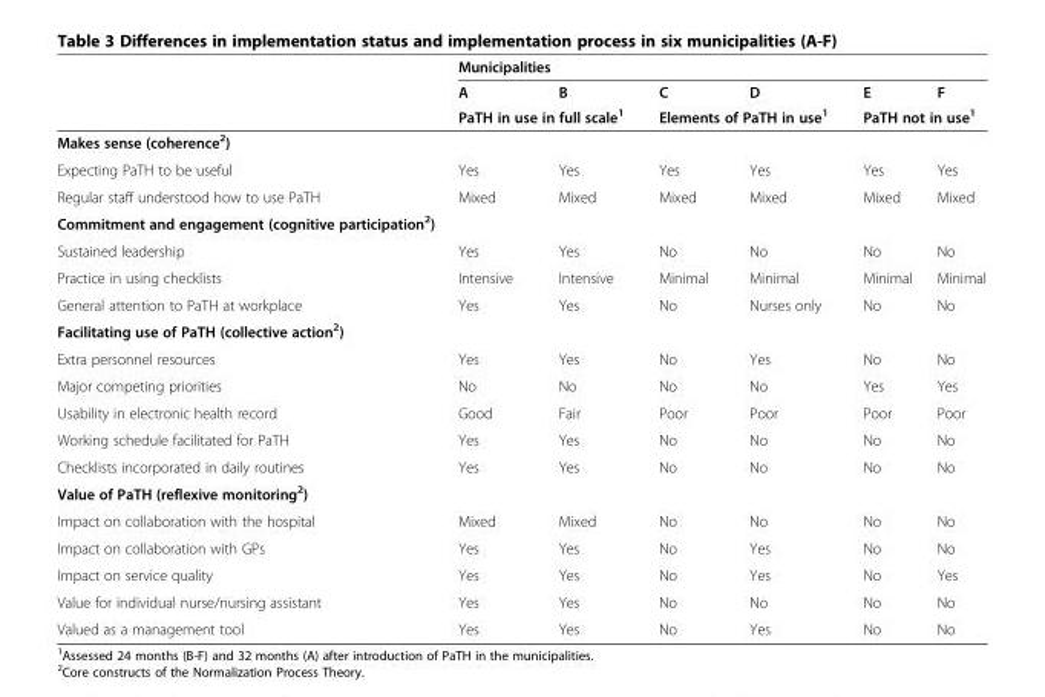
<table><thead><tr><td rowspan="3"></td><td colspan="6">Municipalities</td></tr><tr><td>A</td><td>B</td><td>C</td><td>D</td><td>E</td><td>F</td></tr><tr><td colspan="2">PaTH in use in full scale<sup>1</sup></td><td colspan="2">Elements of PaTH in use<sup>1</sup></td><td colspan="2">PaTH not in use<sup>1</sup></td></tr></thead><tbody><tr><td colspan="7">Makes sense (coherence<sup>2</sup>)</td></tr><tr><td>Expecting PaTH to be useful</td><td>Yes</td><td>Yes</td><td>Yes</td><td>Yes</td><td>Yes</td><td>Yes</td></tr><tr><td>Regular staff understood how to use PaTH</td><td>Mixed</td><td>Mixed</td><td>Mixed</td><td>Mixed</td><td>Mixed</td><td>Mixed</td></tr><tr><td colspan="7">Commitment and engagement (cognitive participation<sup>2</sup>)</td></tr><tr><td>Sustained leadership</td><td>Yes</td><td>Yes</td><td>No</td><td>No</td><td>No</td><td>No</td></tr><tr><td>Practice in using checklists</td><td>Intensive</td><td>Intensive</td><td>Minimal</td><td>Minimal</td><td>Minimal</td><td>Minimal</td></tr><tr><td>General attention to PaTH at workplace</td><td>Yes</td><td>Yes</td><td>No</td><td>Nurses only</td><td>No</td><td>No</td></tr><tr><td colspan="7">Facilitating use of PaTH (collective action<sup>2</sup>)</td></tr><tr><td>Extra personnel resources</td><td>Yes</td><td>Yes</td><td>No</td><td>Yes</td><td>No</td><td>No</td></tr><tr><td>Major competing priorities</td><td>No</td><td>No</td><td>No</td><td>No</td><td>Yes</td><td>Yes</td></tr><tr><td>Usability in electronic health record</td><td>Good</td><td>Fair</td><td>Poor</td><td>Poor</td><td>Poor</td><td>Poor</td></tr><tr><td>Working schedule facilitated for PaTH</td><td>Yes</td><td>Yes</td><td>No</td><td>No</td><td>No</td><td>No</td></tr><tr><td>Checklists incorporated in daily routines</td><td>Yes</td><td>Yes</td><td>No</td><td>No</td><td>No</td><td>No</td></tr><tr><td colspan="7">Value of PaTH (reflexive monitoring<sup>2</sup>)</td></tr><tr><td>Impact on collaboration with the hospital</td><td>Mixed</td><td>Mixed</td><td>No</td><td>No</td><td>No</td><td>No</td></tr><tr><td>Impact on collaboration with GPs</td><td>Yes</td><td>Yes</td><td>No</td><td>Yes</td><td>No</td><td>No</td></tr><tr><td>Impact on service quality</td><td>Yes</td><td>Yes</td><td>No</td><td>Yes</td><td>No</td><td>Yes</td></tr><tr><td>Value for individual nurse/nursing assistant</td><td>Yes</td><td>Yes</td><td>No</td><td>No</td><td>No</td><td>No</td></tr><tr><td>Valued as a management tool</td><td>Yes</td><td>Yes</td><td>No</td><td>Yes</td><td>No</td><td>No</td></tr></tbody></table>